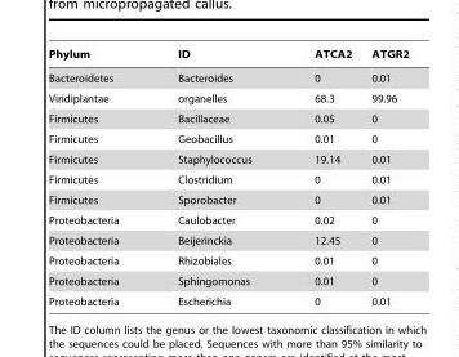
<table><thead><tr><td>Phylum</td><td>ID</td><td>ATCA2</td><td>ATGR2</td></tr></thead><tbody><tr><td>Bacteroidetes</td><td>Bacteroides</td><td>0</td><td>0.01</td></tr><tr><td>Viridiplantae</td><td>organelles</td><td>68.3</td><td>99.96</td></tr><tr><td>Firmicutes</td><td>Bacillaceae</td><td>0.05</td><td>0</td></tr><tr><td>Firmicutes</td><td>Geobacillus</td><td>0.01</td><td>0</td></tr><tr><td>Firmicutes</td><td>Staphylococcus</td><td>19.14</td><td>0.01</td></tr><tr><td>Firmicutes</td><td>Clostridium</td><td>0</td><td>0.01</td></tr><tr><td>Firmicutes</td><td>Sporobacter</td><td>0</td><td>0.01</td></tr><tr><td>Proteobacteria</td><td>Caulobacter</td><td>0.02</td><td>0</td></tr><tr><td>Proteobacteria</td><td>Beijerinckia</td><td>12.45</td><td>0</td></tr><tr><td>Proteobacteria</td><td>Rhizobiales</td><td>0.01</td><td>0</td></tr><tr><td>Proteobacteria</td><td>Sphingomonas</td><td>0.01</td><td>0</td></tr><tr><td>Proteobacteria</td><td>Escherichia</td><td>0</td><td>0.01</td></tr></tbody></table>